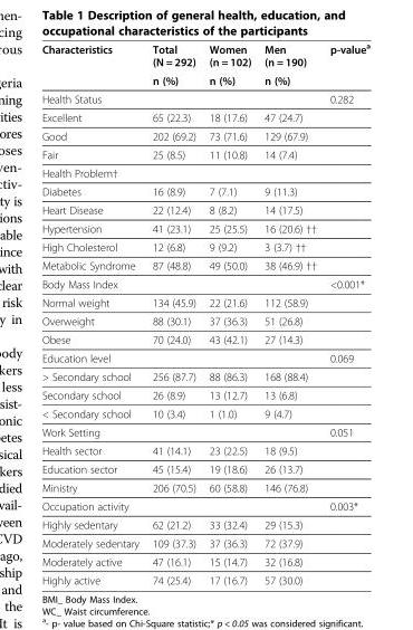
<table><thead><tr><td rowspan="2">Characteristics</td><td rowspan="2">Total (N = 292) n (%)</td><td rowspan="2">Women (n = 102) n (%)</td><td rowspan="2">Men (n = 190) n (%)</td><td rowspan="2">p-value<sup>a</sup></td></tr><tr></tr></thead><tbody><tr><td>Health Status</td><td></td><td></td><td></td><td>0.282</td></tr><tr><td>Excellent</td><td>65 (22.3)</td><td>18 (17.6)</td><td>47 (24.7)</td><td></td></tr><tr><td>Good</td><td>202 (69.2)</td><td>73 (71.6)</td><td>129 (67.9)</td><td></td></tr><tr><td>Fair</td><td>25 (8.5)</td><td>11 (10.8)</td><td>14 (7.4)</td><td></td></tr><tr><td colspan="5">Health Problem†</td></tr><tr><td>Diabetes</td><td>16 (8.9)</td><td>7 (7.1)</td><td>9 (11.3)</td><td></td></tr><tr><td>Heart Disease</td><td>22 (12.4)</td><td>8 (8.2)</td><td>14 (17.5)</td><td></td></tr><tr><td>Hypertension</td><td>41 (23.1)</td><td>25 (25.5)</td><td>16 (20.6) ††</td><td></td></tr><tr><td>High Cholesterol</td><td>12 (6.8)</td><td>9 (9.2)</td><td>3 (3.7) ††</td><td></td></tr><tr><td>Metabolic Syndrome</td><td>87 (48.8)</td><td>49 (50.0)</td><td>38 (46.9) ††</td><td></td></tr><tr><td>Body Mass Index</td><td></td><td></td><td></td><td>&lt;0.001*</td></tr><tr><td>Normal weight</td><td>134 (45.9)</td><td>22 (21.6)</td><td>112 (58.9)</td><td></td></tr><tr><td>Overweight</td><td>88 (30.1)</td><td>37 (36.3)</td><td>51 (26.8)</td><td></td></tr><tr><td>Obese</td><td>70 (24.0)</td><td>43 (42.1)</td><td>27 (14.3)</td><td></td></tr><tr><td>Education level</td><td></td><td></td><td></td><td>0.069</td></tr><tr><td>&gt; Secondary school</td><td>256 (87.7)</td><td>88 (86.3)</td><td>168 (88.4)</td><td></td></tr><tr><td>Secondary school</td><td>26 (8.9)</td><td>13 (12.7)</td><td>13 (6.8)</td><td></td></tr><tr><td>&lt; Secondary school</td><td>10 (3.4)</td><td>1 (1.0)</td><td>9 (4.7)</td><td></td></tr><tr><td>Work Setting</td><td></td><td></td><td></td><td>0.051</td></tr><tr><td>Health sector</td><td>41 (14.1)</td><td>23 (22.5)</td><td>18 (9.5)</td><td></td></tr><tr><td>Education sector</td><td>45 (15.4)</td><td>19 (18.6)</td><td>26 (13.7)</td><td></td></tr><tr><td>Ministry</td><td>206 (70.5)</td><td>60 (58.8)</td><td>146 (76.8)</td><td></td></tr><tr><td>Occupation activity</td><td></td><td></td><td></td><td>0.003*</td></tr><tr><td>Highly sedentary</td><td>62 (21.2)</td><td>33 (32.4)</td><td>29 (15.3)</td><td></td></tr><tr><td>Moderately sedentary</td><td>109 (37.3)</td><td>37 (36.3)</td><td>72 (37.9)</td><td></td></tr><tr><td>Moderately active</td><td>47 (16.1)</td><td>15 (14.7)</td><td>32 (16.8)</td><td></td></tr><tr><td>Highly active</td><td>74 (25.4)</td><td>17 (16.7)</td><td>57 (30.0)</td><td></td></tr></tbody></table>